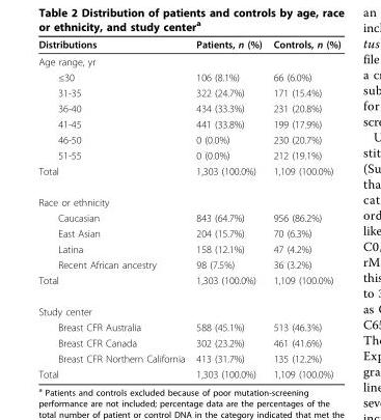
<table><thead><tr><td>Distributions</td><td>Patients, n (%)</td><td>Controls, n (%)</td></tr></thead><tbody><tr><td colspan="3">Age range, yr</td></tr><tr><td>≤30</td><td>106 (8.1%)</td><td>66 (6.0%)</td></tr><tr><td>31-35</td><td>322 (24.7%)</td><td>171 (15.4%)</td></tr><tr><td>36-40</td><td>434 (33.3%)</td><td>231 (20.8%)</td></tr><tr><td>41-45</td><td>441 (33.8%)</td><td>199 (17.9%)</td></tr><tr><td>46-50</td><td>0 (0.0%)</td><td>230 (20.7%)</td></tr><tr><td>51-55</td><td>0 (0.0%)</td><td>212 (19.1%)</td></tr><tr><td>Total</td><td>1,303 (100.0%)</td><td>1,109 (100.0%)</td></tr><tr><td colspan="3">Race or ethnicity</td></tr><tr><td>Caucasian</td><td>843 (64.7%)</td><td>956 (86.2%)</td></tr><tr><td>East Asian</td><td>204 (15.7%)</td><td>70 (6.3%)</td></tr><tr><td>Latina</td><td>158 (12.1%)</td><td>47 (4.2%)</td></tr><tr><td>Recent African ancestry</td><td>98 (7.5%)</td><td>36 (3.2%)</td></tr><tr><td>Total</td><td>1,303 (100.0%)</td><td>1,109 (100.0%)</td></tr><tr><td colspan="3">Study center</td></tr><tr><td>Breast CFR Australia</td><td>588 (45.1%)</td><td>513 (46.3%)</td></tr><tr><td>Breast CFR Canada</td><td>302 (23.2%)</td><td>461 (41.6%)</td></tr><tr><td>Breast CFR Northern California</td><td>413 (31.7%)</td><td>135 (12.2%)</td></tr><tr><td>Total</td><td>1,303 (100.0%)</td><td>1,109 (100.0%)</td></tr></tbody></table>